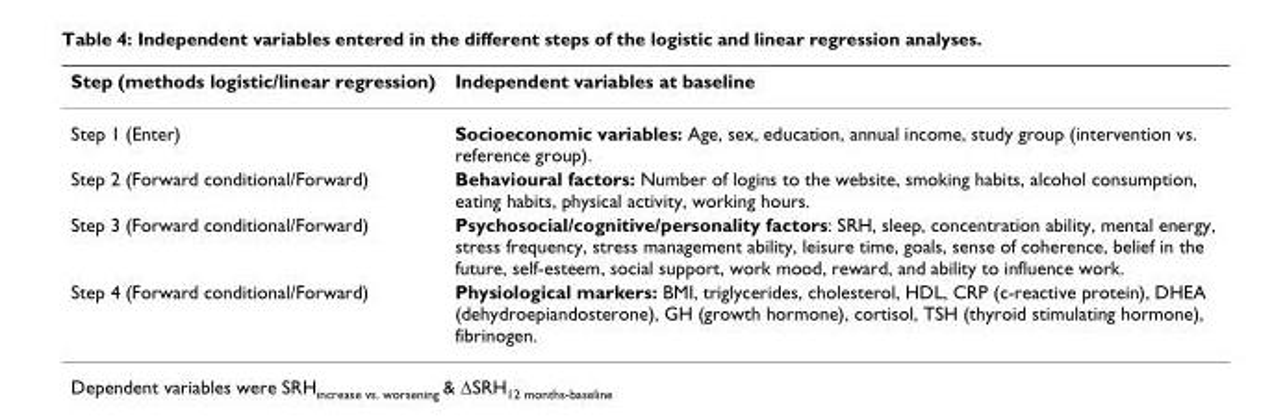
<table><thead><tr><td>Step (methods logistic/linear regression)</td><td>Independent variables at baseline</td></tr></thead><tbody><tr><td>Step 1 (Enter)</td><td>Socioeconomic variables: Age, sex, education, annual income, study group (intervention vs. reference group).</td></tr><tr><td>Step 2 (Forward conditional/Forward)</td><td>Behavioural factors: Number of logins to the website, smoking habits, alcohol consumption, eating habits, physical activity, working hours.</td></tr><tr><td>Step 3 (Forward conditional/Forward)</td><td>Psychosocial/cognitive/personality factors: SRH, sleep, concentration ability, mental energy, stress frequency, stress management ability, leisure time, goals, sense of coherence, belief in the future, self-esteem, social support, work mood, reward, and ability to influence work.</td></tr><tr><td>Step 4 (Forward conditional/Forward)</td><td>Physiological markers: BMI, triglycerides, cholesterol, HDL, CRP (c-reactive protein), DHEA (dehydroepiandosterone), GH (growth hormone), cortisol, TSH (thyroid stimulating hormone), fibrinogen.</td></tr></tbody></table>